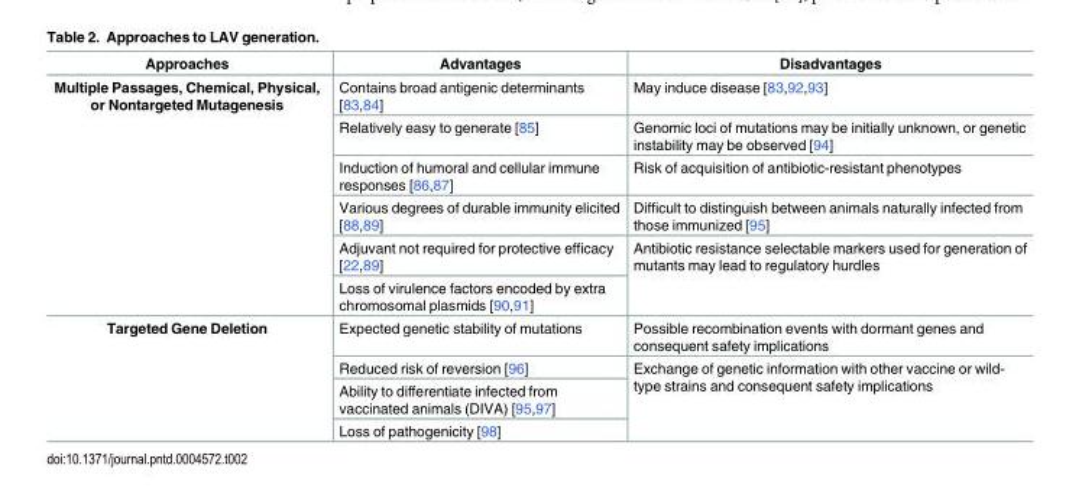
<table><thead><tr><td>Approaches</td><td>Advantages</td><td>Disadvantages</td></tr></thead><tbody><tr><td rowspan="6">Multiple Passages, Chemical, Physical, or Nontargeted Mutagenesis</td><td>Contains broad antigenic determinants [83,84]</td><td>May induce disease [83,92,93]</td></tr><tr><td>Relatively easy to generate [85]</td><td>Genomic loci of mutations may be initially unknown, or genetic instability may be observed [94]</td></tr><tr><td>Induction of humoral and cellular immune responses [86,87]</td><td>Risk of acquisition of antibiotic-resistant phenotypes</td></tr><tr><td>Various degrees of durable immunity elicited [88,89]</td><td>Difficult to distinguish between animals naturally infected from those immunized [95]</td></tr><tr><td>Adjuvant not required for protective efficacy [22,89]</td><td rowspan="2">Antibiotic resistance selectable markers used for generation of mutants may lead to regulatory hurdles</td></tr><tr><td>Loss of virulence factors encoded by extra chromosomal plasmids [90,91]</td></tr><tr><td rowspan="4">Targeted Gene Deletion</td><td>Expected genetic stability of mutations</td><td>Possible recombination events with dormant genes and consequent safety implications</td></tr><tr><td>Reduced risk of reversion [96]</td><td rowspan="3">Exchange of genetic information with other vaccine or wild- type strains and consequent safety implications</td></tr><tr><td>Ability to differentiate infected from vaccinated animals (DIVA) [95,97]</td></tr><tr><td>Loss of pathogenicity [98]</td></tr></tbody></table>